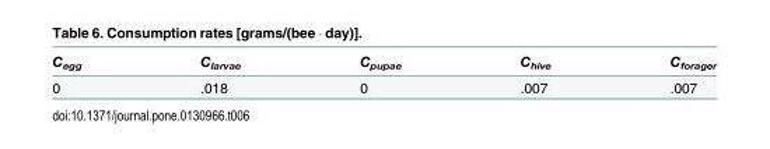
<table><thead><tr><td>C<sub>egg</sub></td><td>C<sub>larvae</sub></td><td>C<sub>pupae</sub></td><td>C<sub>hive</sub></td><td>C<sub>forager</sub></td></tr></thead><tbody><tr><td>0</td><td>.018</td><td>0</td><td>.007</td><td>.007</td></tr></tbody></table>